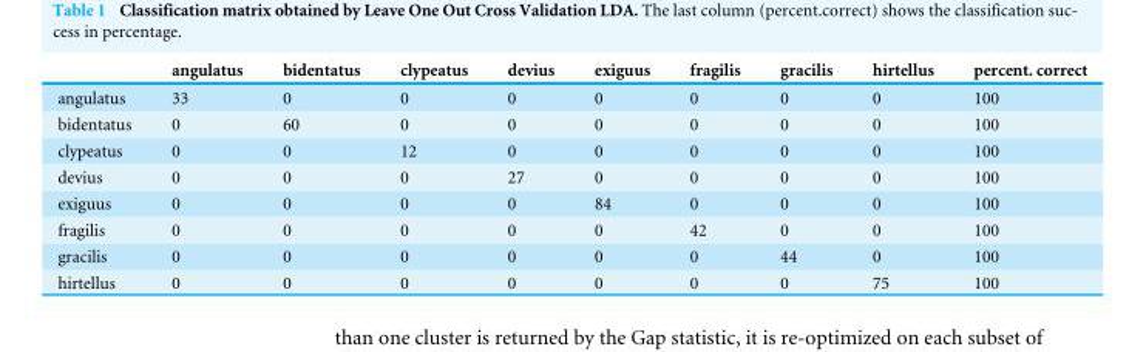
<table><thead><tr><td></td><td>angulatus</td><td>bidentatus</td><td>clypeatus</td><td>devius</td><td>exiguus</td><td>fragilis</td><td>gracilis</td><td>hirtellus</td><td>percent. correct</td></tr></thead><tbody><tr><td>angulatus</td><td>33</td><td>0</td><td>0</td><td>0</td><td>0</td><td>0</td><td>0</td><td>0</td><td>100</td></tr><tr><td>bidentatus</td><td>0</td><td>60</td><td>0</td><td>0</td><td>0</td><td>0</td><td>0</td><td>0</td><td>100</td></tr><tr><td>clypeatus</td><td>0</td><td>0</td><td>12</td><td>0</td><td>0</td><td>0</td><td>0</td><td>0</td><td>100</td></tr><tr><td>devius</td><td>0</td><td>0</td><td>0</td><td>27</td><td>0</td><td>0</td><td>0</td><td>0</td><td>100</td></tr><tr><td>exiguus</td><td>0</td><td>0</td><td>0</td><td>0</td><td>84</td><td>0</td><td>0</td><td>0</td><td>100</td></tr><tr><td>fragilis</td><td>0</td><td>0</td><td>0</td><td>0</td><td>0</td><td>42</td><td>0</td><td>0</td><td>100</td></tr><tr><td>gracilis</td><td>0</td><td>0</td><td>0</td><td>0</td><td>0</td><td>0</td><td>44</td><td>0</td><td>100</td></tr><tr><td>hirtellus</td><td>0</td><td>0</td><td>0</td><td>0</td><td>0</td><td>0</td><td>0</td><td>75</td><td>100</td></tr></tbody></table>